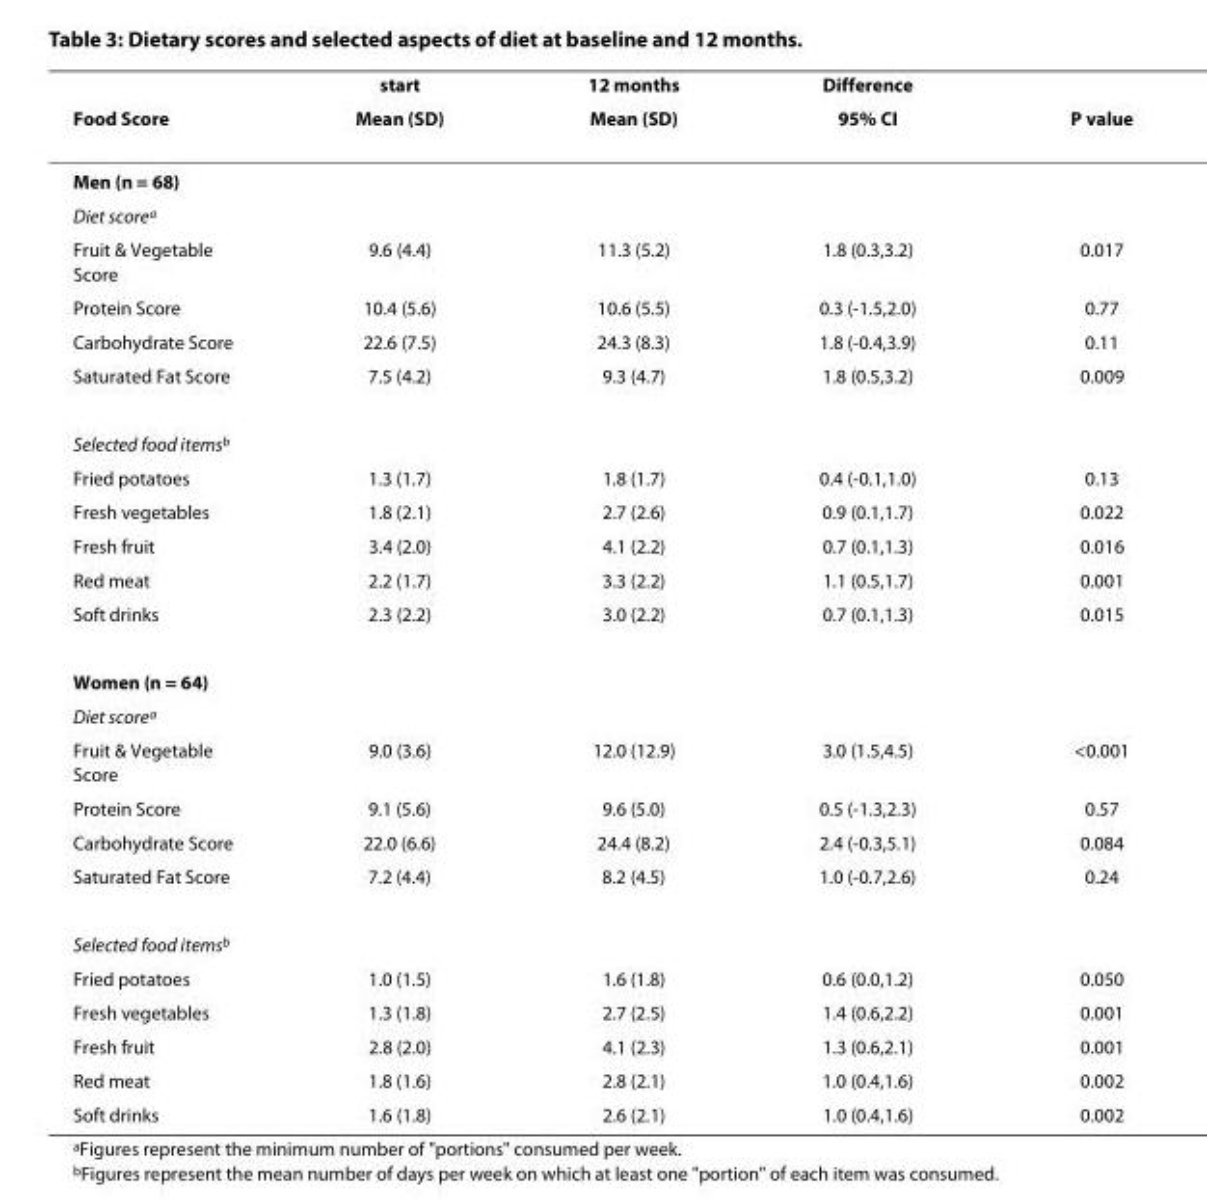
<table><thead><tr><td rowspan="2">Food Score</td><td rowspan="2">start Mean (SD)</td><td rowspan="2">12 months Mean (SD)</td><td rowspan="2">Difference 95% CI</td><td rowspan="2">P value</td></tr><tr></tr></thead><tbody><tr><td colspan="5">Men (n = 68)</td></tr><tr><td colspan="5">Diet score<sup>a</sup></td></tr><tr><td>Fruit &amp; Vegetable Score</td><td>9.6 (4.4)</td><td>11.3 (5.2)</td><td>1.8 (0.3,3.2)</td><td>0.017</td></tr><tr><td>Protein Score</td><td>10.4 (5.6)</td><td>10.6 (5.5)</td><td>0.3 (-1.5,2.0)</td><td>0.77</td></tr><tr><td>Carbohydrate Score</td><td>22.6 (7.5)</td><td>24.3 (8.3)</td><td>1.8 (-0.4,3.9)</td><td>0.11</td></tr><tr><td>Saturated Fat Score</td><td>7.5 (4.2)</td><td>9.3 (4.7)</td><td>1.8 (0.5,3.2)</td><td>0.009</td></tr><tr><td colspan="5">Selected food items<sup>b</sup></td></tr><tr><td>Fried potatoes</td><td>1.3 (1.7)</td><td>1.8 (1.7)</td><td>0.4 (-0.1,1.0)</td><td>0.13</td></tr><tr><td>Fresh vegetables</td><td>1.8 (2.1)</td><td>2.7 (2.6)</td><td>0.9 (0.1,1.7)</td><td>0.022</td></tr><tr><td>Fresh fruit</td><td>3.4 (2.0)</td><td>4.1 (2.2)</td><td>0.7 (0.1,1.3)</td><td>0.016</td></tr><tr><td>Red meat</td><td>2.2 (1.7)</td><td>3.3 (2.2)</td><td>1.1 (0.5,1.7)</td><td>0.001</td></tr><tr><td>Soft drinks</td><td>2.3 (2.2)</td><td>3.0 (2.2)</td><td>0.7 (0.1,1.3)</td><td>0.015</td></tr><tr><td colspan="5">Women (n = 64)</td></tr><tr><td colspan="5">Diet score<sup>a</sup></td></tr><tr><td>Fruit &amp; Vegetable Score</td><td>9.0 (3.6)</td><td>12.0 (12.9)</td><td>3.0 (1.5,4.5)</td><td>&lt;0.001</td></tr><tr><td>Protein Score</td><td>9.1 (5.6)</td><td>9.6 (5.0)</td><td>0.5 (-1.3,2.3)</td><td>0.57</td></tr><tr><td>Carbohydrate Score</td><td>22.0 (6.6)</td><td>24.4 (8.2)</td><td>2.4 (-0.3,5.1)</td><td>0.084</td></tr><tr><td>Saturated Fat Score</td><td>7.2 (4.4)</td><td>8.2 (4.5)</td><td>1.0 (-0.7,2.6)</td><td>0.24</td></tr><tr><td colspan="5">Selected food items<sup>b</sup></td></tr><tr><td>Fried potatoes</td><td>1.0 (1.5)</td><td>1.6 (1.8)</td><td>0.6 (0.0,1.2)</td><td>0.050</td></tr><tr><td>Fresh vegetables</td><td>1.3 (1.8)</td><td>2.7 (2.5)</td><td>1.4 (0.6,2.2)</td><td>0.001</td></tr><tr><td>Fresh fruit</td><td>2.8 (2.0)</td><td>4.1 (2.3)</td><td>1.3 (0.6,2.1)</td><td>0.001</td></tr><tr><td>Red meat</td><td>1.8 (1.6)</td><td>2.8 (2.1)</td><td>1.0 (0.4,1.6)</td><td>0.002</td></tr><tr><td>Soft drinks</td><td>1.6 (1.8)</td><td>2.6 (2.1)</td><td>1.0 (0.4,1.6)</td><td>0.002</td></tr></tbody></table>